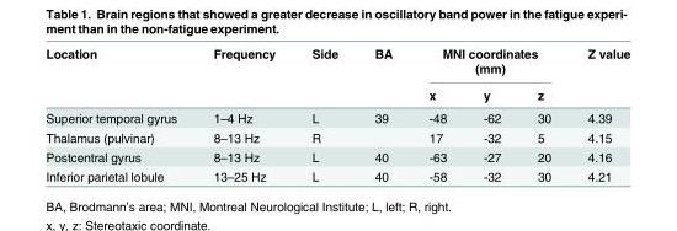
<table><thead><tr><td rowspan="2">Location</td><td rowspan="2">Frequency</td><td rowspan="2">Side</td><td rowspan="2">BA</td><td colspan="3">MNI coordinates (mm)</td><td rowspan="2">Z value</td></tr><tr><td>x</td><td>y</td><td>z</td></tr></thead><tbody><tr><td>Superior temporal gyrus</td><td>1–4 Hz</td><td>L</td><td>39</td><td>-48</td><td>-62</td><td>30</td><td>4.39</td></tr><tr><td>Thalamus (pulvinar)</td><td>8–13 Hz</td><td>R</td><td></td><td>17</td><td>-32</td><td>5</td><td>4.15</td></tr><tr><td>Postcentral gyrus</td><td>8–13 Hz</td><td>L</td><td>40</td><td>-63</td><td>-27</td><td>20</td><td>4.16</td></tr><tr><td>Inferior parietal lobule</td><td>13–25 Hz</td><td>L</td><td>40</td><td>-58</td><td>-32</td><td>30</td><td>4.21</td></tr></tbody></table>